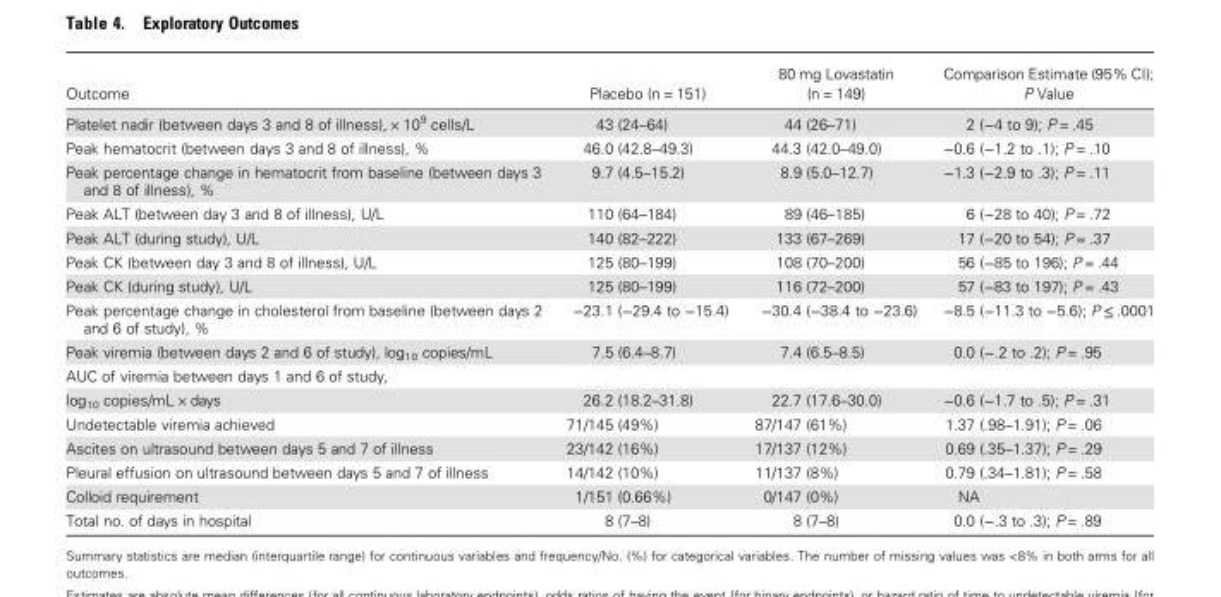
<table><thead><tr><td>Outcome</td><td>Placebo (n = 151)</td><td>80 mg Lovastatin (n = 149)</td><td>Comparison Estimate (95% CI); P Value</td></tr></thead><tbody><tr><td>Platelet nadir (between days 3 and 8 of illness), × 10<sup>9</sup> cells/L</td><td>43 (24–64)</td><td>44 (26–71)</td><td>2 (−4 to 9); P = .45</td></tr><tr><td>Peak hematocrit (between days 3 and 8 of illness), %</td><td>46.0 (42.8–49.3)</td><td>44.3 (42.0–49.0)</td><td>−0.6 (−1.2 to .1); P = .10</td></tr><tr><td>Peak percentage change in hematocrit from baseline (between days 3 and 8 of illness), %</td><td>9.7 (4.5–15.2)</td><td>8.9 (5.0–12.7)</td><td>−1.3 (−2.9 to .3); P = .11</td></tr><tr><td>Peak ALT (between day 3 and 8 of illness), U/L</td><td>110 (64–184)</td><td>89 (46–185)</td><td>6 (−28 to 40); P = .72</td></tr><tr><td>Peak ALT (during study), U/L</td><td>140 (82–222)</td><td>133 (67–269)</td><td>17 (−20 to 54); P = .37</td></tr><tr><td>Peak CK (between day 3 and 8 of illness), U/L</td><td>125 (80–199)</td><td>108 (70–200)</td><td>56 (−85 to 196); P = .44</td></tr><tr><td>Peak CK (during study), U/L</td><td>125 (80–199)</td><td>116 (72–200)</td><td>57 (−83 to 197); P = .43</td></tr><tr><td>Peak percentage change in cholesterol from baseline (between days 2 and 6 of study), %</td><td>−23.1 (−29.4 to −15.4)</td><td>−30.4 (−38.4 to −23.6)</td><td>−8.5 (−11.3 to −5.6); P ≤ .0001</td></tr><tr><td>Peak viremia (between days 2 and 6 of study), log<sub>10</sub> copies/mL</td><td>7.5 (6.4–8.7)</td><td>7.4 (6.5–8.5)</td><td>0.0 (−.2 to .2); P = .95</td></tr><tr><td colspan="4">AUC of viremia between days 1 and 6 of study,</td></tr><tr><td>log<sub>10</sub> copies/mL × days</td><td>26.2 (18.2–31.8)</td><td>22.7 (17.6–30.0)</td><td>−0.6 (−1.7 to .5); P = .31</td></tr><tr><td>Undetectable viremia achieved</td><td>71/145 (49%)</td><td>87/147 (61%)</td><td>1.37 (.98–1.91); P = .06</td></tr><tr><td>Ascites on ultrasound between days 5 and 7 of illness</td><td>23/142 (16%)</td><td>17/137 (12%)</td><td>0.69 (.35–1.37); P = .29</td></tr><tr><td>Pleural effusion on ultrasound between days 5 and 7 of illness</td><td>14/142 (10%)</td><td>11/137 (8%)</td><td>0.79 (.34–1.81); P = .58</td></tr><tr><td>Colloid requirement</td><td>1/151 (0.66%)</td><td>0/147 (0%)</td><td>NA</td></tr><tr><td>Total no. of days in hospital</td><td>8 (7–8)</td><td>8 (7–8)</td><td>0.0 (−.3 to .3); P = .89</td></tr></tbody></table>